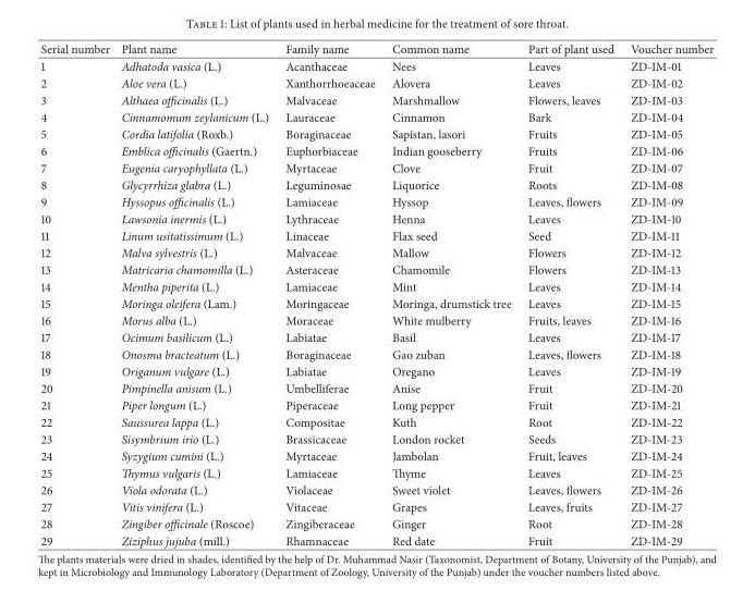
<table><thead><tr><td>Serial number</td><td>Plant name</td><td>Family name</td><td>Common name</td><td>Part of plant used</td><td>Voucher number</td></tr></thead><tbody><tr><td>1</td><td>Adhatoda vasica (L.)</td><td>Acanthaceae</td><td>Nees</td><td>Leaves</td><td>ZD-IM-01</td></tr><tr><td>2</td><td>Aloe vera (L.)</td><td>Xanthorrhoeaceae</td><td>Alovera</td><td>Leaves</td><td>ZD-IM-02</td></tr><tr><td>3</td><td>Althaea officinalis (L.)</td><td>Malvaceae</td><td>Marshmallow</td><td>Flowers, leaves</td><td>ZD-IM-03</td></tr><tr><td>4</td><td>Cinnamomum zeylanicum (L.)</td><td>Lauraceae</td><td>Cinnamon</td><td>Bark</td><td>ZD-IM-04</td></tr><tr><td>5</td><td>Cordia latifolia (Roxb.)</td><td>Boraginaceae</td><td>Sapistan, lasori</td><td>Fruits</td><td>ZD-IM-05</td></tr><tr><td>6</td><td>Emblica officinalis (Gaertn.)</td><td>Euphorbiaceae</td><td>Indian gooseberry</td><td>Fruits</td><td>ZD-IM-06</td></tr><tr><td>7</td><td>Eugenia caryophyllata (L.)</td><td>Myrtaceae</td><td>Clove</td><td>Fruit</td><td>ZD-IM-07</td></tr><tr><td>8</td><td>Glycyrrhiza glabra (L.)</td><td>Leguminosae</td><td>Liquorice</td><td>Roots</td><td>ZD-IM-08</td></tr><tr><td>9</td><td>Hyssopus officinalis (L.)</td><td>Lamiaceae</td><td>Hyssop</td><td>Leaves, flowers</td><td>ZD-IM-09</td></tr><tr><td>10</td><td>Lawsonia inermis (L.)</td><td>Lythraceae</td><td>Henna</td><td>Leaves</td><td>ZD-IM-10</td></tr><tr><td>11</td><td>Linum usitatissimum (L.)</td><td>Linaceae</td><td>Flax seed</td><td>Seed</td><td>ZD-IM-11</td></tr><tr><td>12</td><td>Malva sylvestris (L.)</td><td>Malvaceae</td><td>Mallow</td><td>Flowers</td><td>ZD-IM-12</td></tr><tr><td>13</td><td>Matricaria chamomilla (L.)</td><td>Asteraceae</td><td>Chamomile</td><td>Flowers</td><td>ZD-IM-13</td></tr><tr><td>14</td><td>Mentha piperita (L.)</td><td>Lamiaceae</td><td>Mint</td><td>Leaves</td><td>ZD-IM-14</td></tr><tr><td>15</td><td>Moringa oleifera (Lam.)</td><td>Moringaceae</td><td>Moringa, drumstick tree</td><td>Leaves</td><td>ZD-IM-15</td></tr><tr><td>16</td><td>Morus alba (L.)</td><td>Moraceae</td><td>White mulberry</td><td>Fruits, leaves</td><td>ZD-IM-16</td></tr><tr><td>17</td><td>Ocimum basilicum (L.)</td><td>Labiatae</td><td>Basil</td><td>Leaves</td><td>ZD-IM-17</td></tr><tr><td>18</td><td>Onosma bracteatum (L.)</td><td>Boraginaceae</td><td>Gao zuban</td><td>Leaves, flowers</td><td>ZD-IM-18</td></tr><tr><td>19</td><td>Origanum vulgare (L.)</td><td>Labiatae</td><td>Oregano</td><td>Leaves</td><td>ZD-IM-19</td></tr><tr><td>20</td><td>Pimpinella anisum (L.)</td><td>Umbelliferae</td><td>Anise</td><td>Fruit</td><td>ZD-IM-20</td></tr><tr><td>21</td><td>Piper longum (L.)</td><td>Piperaceae</td><td>Long pepper</td><td>Fruit</td><td>ZD-IM-21</td></tr><tr><td>22</td><td>Saussurea lappa (L.)</td><td>Compositae</td><td>Kuth</td><td>Root</td><td>ZD-IM-22</td></tr><tr><td>23</td><td>Sisymbrium irio (L.)</td><td>Brassicaceae</td><td>London rocket</td><td>Seeds</td><td>ZD-IM-23</td></tr><tr><td>24</td><td>Syzygium cumini (L.)</td><td>Myrtaceae</td><td>Jambolan</td><td>Fruit, leaves</td><td>ZD-IM-24</td></tr><tr><td>25</td><td>Thymus vulgaris (L.)</td><td>Lamiaceae</td><td>Thyme</td><td>Leaves</td><td>ZD-IM-25</td></tr><tr><td>26</td><td>Viola odorata (L.)</td><td>Violaceae</td><td>Sweet violet</td><td>Leaves, flowers</td><td>ZD-IM-26</td></tr><tr><td>27</td><td>Vitis vinifera (L.)</td><td>Vitaceae</td><td>Grapes</td><td>Leaves, fruits</td><td>ZD-IM-27</td></tr><tr><td>28</td><td>Zingiber officinale (Roscoe)</td><td>Zingiberaceae</td><td>Ginger</td><td>Root</td><td>ZD-IM-28</td></tr><tr><td>29</td><td>Ziziphus jujuba (mill.)</td><td>Rhamnaceae</td><td>Red date</td><td>Fruit</td><td>ZD-IM-29</td></tr></tbody></table>